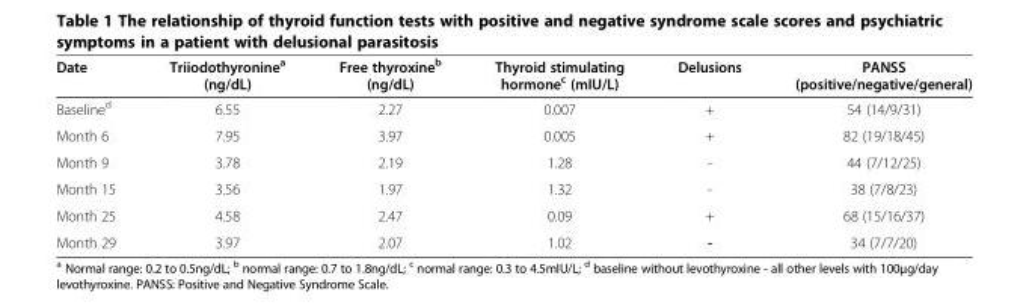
<table><thead><tr><td>Date</td><td>Triiodothyronine<sup>a</sup> (ng/dL)</td><td>Free thyroxine<sup>b</sup> (ng/dL)</td><td>Thyroid stimulating hormone<sup>c</sup> (mIU/L)</td><td>Delusions</td><td>PANSS (positive/negative/general)</td></tr></thead><tbody><tr><td>Baseline<sup>d</sup></td><td>6.55</td><td>2.27</td><td>0.007</td><td>+</td><td>54 (14/9/31)</td></tr><tr><td>Month 6</td><td>7.95</td><td>3.97</td><td>0.005</td><td>+</td><td>82 (19/18/45)</td></tr><tr><td>Month 9</td><td>3.78</td><td>2.19</td><td>1.28</td><td>-</td><td>44 (7/12/25)</td></tr><tr><td>Month 15</td><td>3.56</td><td>1.97</td><td>1.32</td><td>-</td><td>38 (7/8/23)</td></tr><tr><td>Month 25</td><td>4.58</td><td>2.47</td><td>0.09</td><td>+</td><td>68 (15/16/37)</td></tr><tr><td>Month 29</td><td>3.97</td><td>2.07</td><td>1.02</td><td>-</td><td>34 (7/7/20)</td></tr></tbody></table>